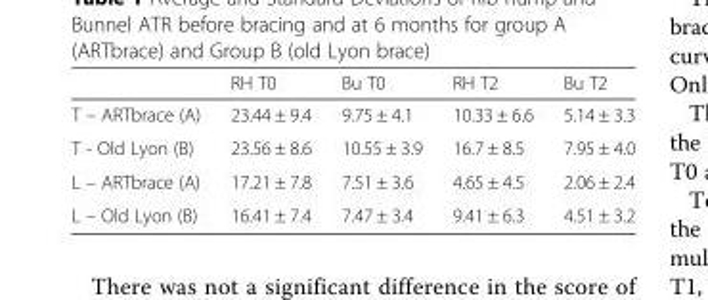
<table><thead><tr><td></td><td>RH T0</td><td>Bu T0</td><td>RH T2</td><td>Bu T2</td></tr></thead><tbody><tr><td>T – ARTbrace (A)</td><td>23.44 ± 9.4</td><td>9.75 ± 4.1</td><td>10.33 ± 6.6</td><td>5.14 ± 3.3</td></tr><tr><td>T - Old Lyon (B)</td><td>23.56 ± 8.6</td><td>10.55 ± 3.9</td><td>16.7 ± 8.5</td><td>7.95 ± 4.0</td></tr><tr><td>L – ARTbrace (A)</td><td>17.21 ± 7.8</td><td>7.51 ± 3.6</td><td>4.65 ± 4.5</td><td>2.06 ± 2.4</td></tr><tr><td>L – Old Lyon (B)</td><td>16.41 ± 7.4</td><td>7.47 ± 3.4</td><td>9.41 ± 6.3</td><td>4.51 ± 3.2</td></tr></tbody></table>